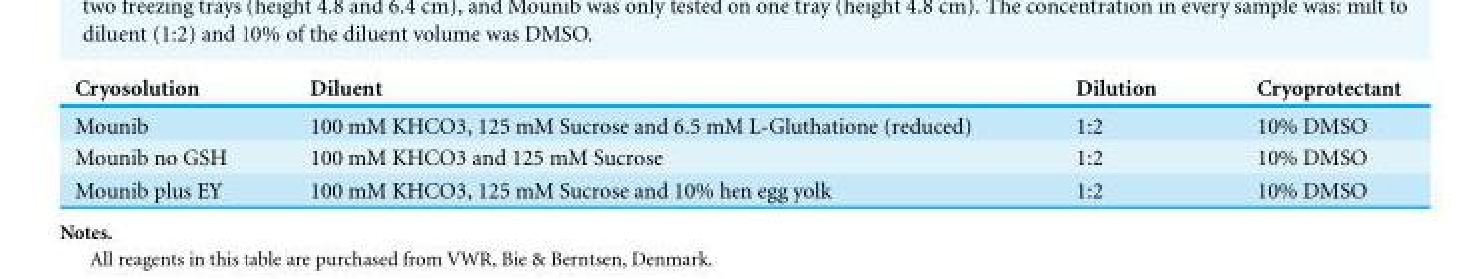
<table><thead><tr><td>Cryosolution</td><td>Diluent</td><td>Dilution</td><td>Cryoprotectant</td></tr></thead><tbody><tr><td>Mounib</td><td>100 mM KHCO3, 125 mM Sucrose and 6.5 mM L-Gluthatione (reduced)</td><td>1:2</td><td>10% DMSO</td></tr><tr><td>Mounib no GSH</td><td>100 mM KHCO3 and 125 mM Sucrose</td><td>1:2</td><td>10% DMSO</td></tr><tr><td>Mounib plus EY</td><td>100 mM KHCO3, 125 mM Sucrose and 10% hen egg yolk</td><td>1:2</td><td>10% DMSO</td></tr></tbody></table>